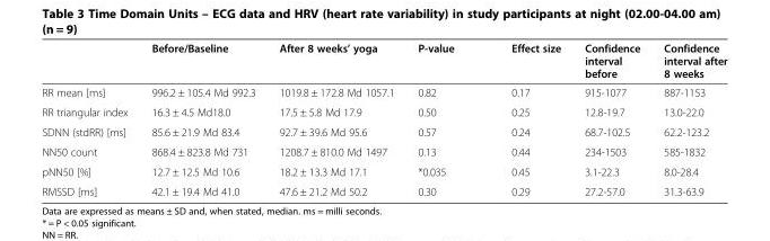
<table><thead><tr><td></td><td>Before/Baseline</td><td>After 8 weeks’ yoga</td><td>P-value</td><td>Effect size</td><td>Confidence interval before</td><td>Confidence interval after 8 weeks</td></tr></thead><tbody><tr><td>RR mean [ms]</td><td>996.2 ± 105.4 Md 992.3</td><td>1019.8 ± 172.8 Md 1057.1</td><td>0.82</td><td>0.17</td><td>915-1077</td><td>887-1153</td></tr><tr><td>RR triangular index</td><td>16.3 ± 4.5 Md18.0</td><td>17.5 ± 5.8 Md 17.9</td><td>0.50</td><td>0.25</td><td>12.8-19.7</td><td>13.0-22.0</td></tr><tr><td>SDNN (stdRR) [ms]</td><td>85.6 ± 21.9 Md 83.4</td><td>92.7 ± 39.6 Md 95.6</td><td>0.57</td><td>0.24</td><td>68.7-102.5</td><td>62.2-123.2</td></tr><tr><td>NN50 count</td><td>868.4 ± 823.8 Md 731</td><td>1208.7 ± 810.0 Md 1497</td><td>0.13</td><td>0.44</td><td>234-1503</td><td>585-1832</td></tr><tr><td>pNN50 [%]</td><td>12.7 ± 12.5 Md 10.6</td><td>18.2 ± 13.3 Md 17.1</td><td>*0.035</td><td>0.45</td><td>3.1-22.3</td><td>8.0-28.4</td></tr><tr><td>RMSSD [ms]</td><td>42.1 ± 19.4 Md 41.0</td><td>47.6 ± 21.2 Md 50.2</td><td>0.30</td><td>0.29</td><td>27.2-57.0</td><td>31.3-63.9</td></tr></tbody></table>